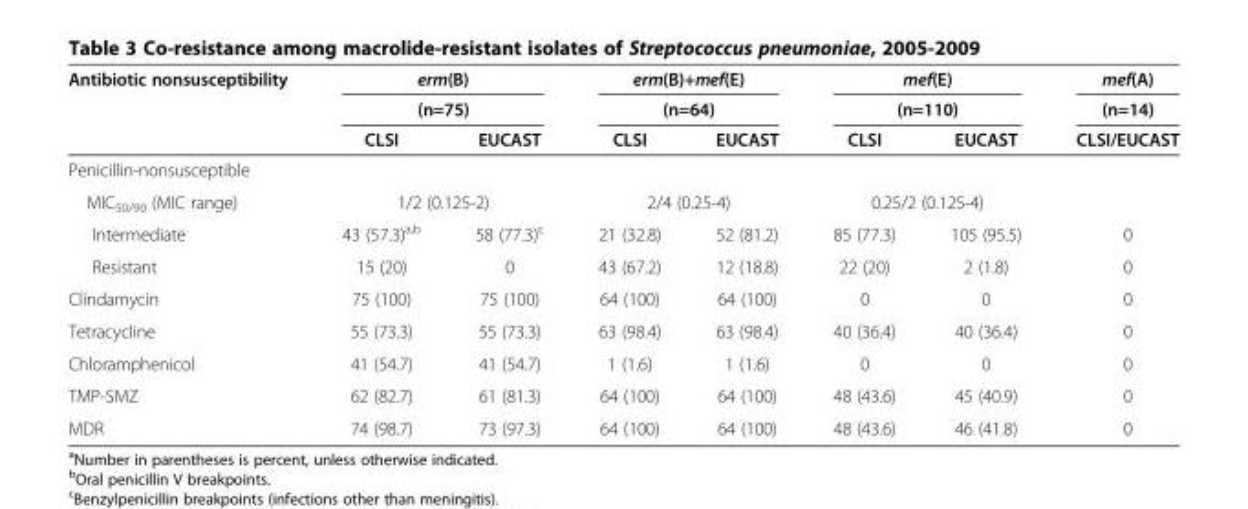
<table><thead><tr><td rowspan="3">Antibiotic nonsusceptibility</td><td rowspan="2" colspan="2">erm(B) (n=75)</td><td rowspan="2" colspan="2">erm(B)+mef(E) (n=64)</td><td rowspan="2" colspan="2">mef(E) (n=110)</td><td rowspan="3">mef(A) (n=14) CLSI/EUCAST</td></tr><tr></tr><tr><td>CLSI</td><td>EUCAST</td><td>CLSI</td><td>EUCAST</td><td>CLSI</td><td>EUCAST</td></tr></thead><tbody><tr><td colspan="8">Penicillin-nonsusceptible</td></tr><tr><td>MIC<sub>50/90</sub> (MIC range)</td><td colspan="2">1/2 (0.125-2)</td><td colspan="2">2/4 (0.25-4)</td><td colspan="2">0.25/2 (0.125-4)</td><td></td></tr><tr><td>Intermediate</td><td>43 (57.3)<sup>a,b</sup></td><td>58 (77.3)<sup>c</sup></td><td>21 (32.8)</td><td>52 (81.2)</td><td>85 (77.3)</td><td>105 (95.5)</td><td>0</td></tr><tr><td>Resistant</td><td>15 (20)</td><td>0</td><td>43 (67.2)</td><td>12 (18.8)</td><td>22 (20)</td><td>2 (1.8)</td><td>0</td></tr><tr><td>Clindamycin</td><td>75 (100)</td><td>75 (100)</td><td>64 (100)</td><td>64 (100)</td><td>0</td><td>0</td><td>0</td></tr><tr><td>Tetracycline</td><td>55 (73.3)</td><td>55 (73.3)</td><td>63 (98.4)</td><td>63 (98.4)</td><td>40 (36.4)</td><td>40 (36.4)</td><td>0</td></tr><tr><td>Chloramphenicol</td><td>41 (54.7)</td><td>41 (54.7)</td><td>1 (1.6)</td><td>1 (1.6)</td><td>0</td><td>0</td><td>0</td></tr><tr><td>TMP-SMZ</td><td>62 (82.7)</td><td>61 (81.3)</td><td>64 (100)</td><td>64 (100)</td><td>48 (43.6)</td><td>45 (40.9)</td><td>0</td></tr><tr><td>MDR</td><td>74 (98.7)</td><td>73 (97.3)</td><td>64 (100)</td><td>64 (100)</td><td>48 (43.6)</td><td>46 (41.8)</td><td>0</td></tr></tbody></table>